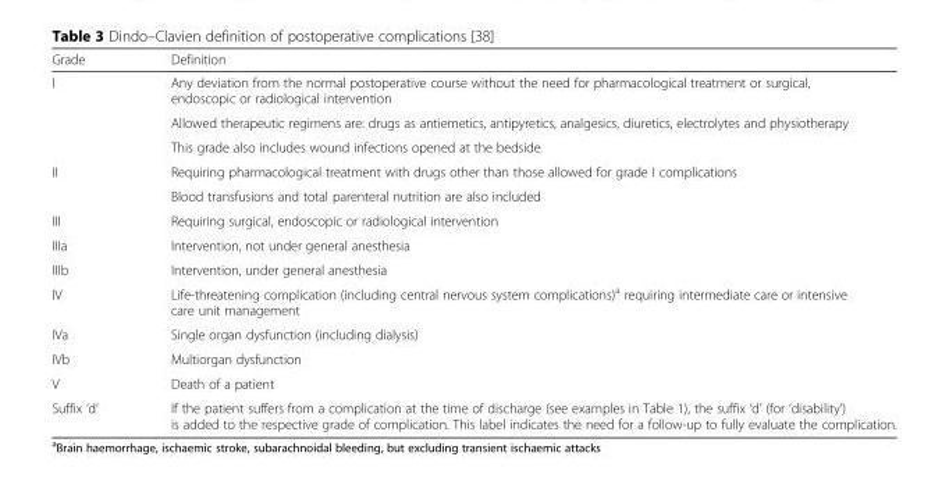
<table><thead><tr><td>Grade</td><td>Definition</td></tr></thead><tbody><tr><td rowspan="3">I</td><td>Any deviation from the normal postoperative course without the need for pharmacological treatment or surgical, endoscopic or radiological intervention</td></tr><tr><td>Allowed therapeutic regimens are: drugs as antiemetics, antipyretics, analgesics, diuretics, electrolytes and physiotherapy</td></tr><tr><td>This grade also includes wound infections opened at the bedside</td></tr><tr><td rowspan="2">II</td><td>Requiring pharmacological treatment with drugs other than those allowed for grade I complications</td></tr><tr><td>Blood transfusions and total parenteral nutrition are also included</td></tr><tr><td>III</td><td>Requiring surgical, endoscopic or radiological intervention</td></tr><tr><td>IIIa</td><td>Intervention, not under general anesthesia</td></tr><tr><td>IIIb</td><td>Intervention, under general anesthesia</td></tr><tr><td>IV</td><td>Life-threatening complication (including central nervous system complications)<sup>a</sup> requiring intermediate care or intensive care unit management</td></tr><tr><td>IVa</td><td>Single organ dysfunction (including dialysis)</td></tr><tr><td>IVb</td><td>Multiorgan dysfunction</td></tr><tr><td>V</td><td>Death of a patient</td></tr><tr><td>Suffix ‘d’</td><td>If the patient suffers from a complication at the time of discharge (see examples in Table 1), the suffix ‘d’ (for ‘disability’) is added to the respective grade of complication. This label indicates the need for a follow-up to fully evaluate the complication.</td></tr></tbody></table>